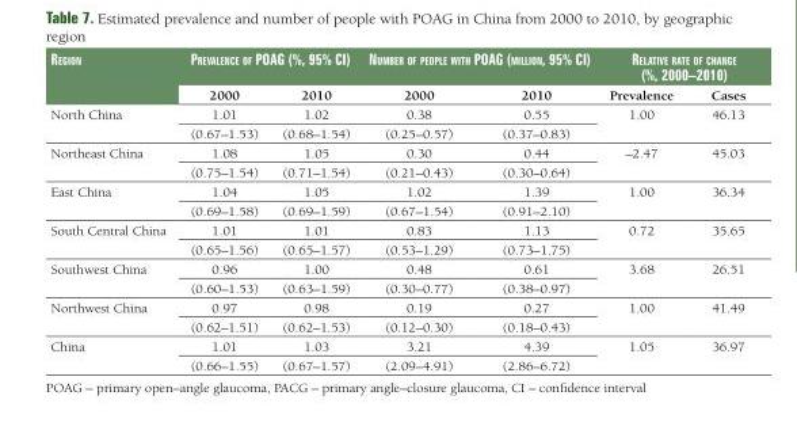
<table><thead><tr><td rowspan="2">Region</td><td colspan="2">pRevalence of poag (%, 95% ci)</td><td colspan="2">numbeR of people with poag (million, 95% ci)</td><td colspan="2">Relative Rate of change (%, 2000–2010)</td></tr><tr><td>2000</td><td>2010</td><td>2000</td><td>2010</td><td>Prevalence</td><td>Cases</td></tr></thead><tbody><tr><td rowspan="2">North China</td><td>1.01</td><td>1.02</td><td>0.38</td><td>0.55</td><td rowspan="2">1.00</td><td rowspan="2">46.13</td></tr><tr><td>(0.67–1.53)</td><td>(0.68–1.54)</td><td>(0.25–0.57)</td><td>(0.37–0.83)</td></tr><tr><td rowspan="2">Northeast China</td><td>1.08</td><td>1.05</td><td>0.30</td><td>0.44</td><td rowspan="2">–2.47</td><td rowspan="2">45.03</td></tr><tr><td>(0.75–1.54)</td><td>(0.71–1.54)</td><td>(0.21–0.43)</td><td>(0.30–0.64)</td></tr><tr><td rowspan="2">East China</td><td>1.04</td><td>1.05</td><td>1.02</td><td>1.39</td><td rowspan="2">1.00</td><td rowspan="2">36.34</td></tr><tr><td>(0.69–1.58)</td><td>(0.69–1.59)</td><td>(0.67–1.54)</td><td>(0.91–2.10)</td></tr><tr><td rowspan="2">South Central China</td><td>1.01</td><td>1.01</td><td>0.83</td><td>1.13</td><td rowspan="2">0.72</td><td rowspan="2">35.65</td></tr><tr><td>(0.65–1.56)</td><td>(0.65–1.57)</td><td>(0.53–1.29)</td><td>(0.73–1.75)</td></tr><tr><td rowspan="2">Southwest China</td><td>0.96</td><td>1.00</td><td>0.48</td><td>0.61</td><td rowspan="2">3.68</td><td rowspan="2">26.51</td></tr><tr><td>(0.60–1.53)</td><td>(0.63–1.59)</td><td>(0.30–0.77)</td><td>(0.38–0.97)</td></tr><tr><td rowspan="2">Northwest China</td><td>0.97</td><td>0.98</td><td>0.19</td><td>0.27</td><td rowspan="2">1.00</td><td rowspan="2">41.49</td></tr><tr><td>(0.62–1.51)</td><td>(0.62–1.53)</td><td>(0.12–0.30)</td><td>(0.18–0.43)</td></tr><tr><td rowspan="2">China</td><td>1.01</td><td>1.03</td><td>3.21</td><td>4.39</td><td rowspan="2">1.05</td><td rowspan="2">36.97</td></tr><tr><td>(0.66–1.55)</td><td>(0.67–1.57)</td><td>(2.09–4.91)</td><td>(2.86–6.72)</td></tr></tbody></table>